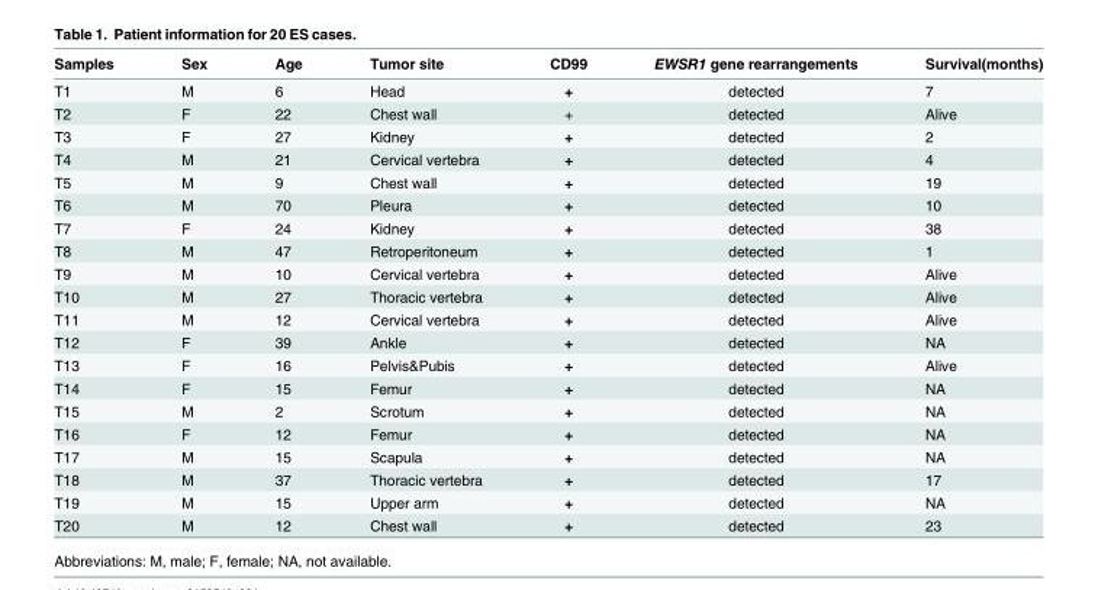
<table><thead><tr><td>Samples</td><td>Sex</td><td>Age</td><td>Tumor site</td><td>CD99</td><td>EWSR1 gene rearrangements</td><td>Survival(months)</td></tr></thead><tbody><tr><td>T1</td><td>M</td><td>6</td><td>Head</td><td>+</td><td>detected</td><td>7</td></tr><tr><td>T2</td><td>F</td><td>22</td><td>Chest wall</td><td>+</td><td>detected</td><td>Alive</td></tr><tr><td>T3</td><td>F</td><td>27</td><td>Kidney</td><td>+</td><td>detected</td><td>2</td></tr><tr><td>T4</td><td>M</td><td>21</td><td>Cervical vertebra</td><td>+</td><td>detected</td><td>4</td></tr><tr><td>T5</td><td>M</td><td>9</td><td>Chest wall</td><td>+</td><td>detected</td><td>19</td></tr><tr><td>T6</td><td>M</td><td>70</td><td>Pleura</td><td>+</td><td>detected</td><td>10</td></tr><tr><td>T7</td><td>F</td><td>24</td><td>Kidney</td><td>+</td><td>detected</td><td>38</td></tr><tr><td>T8</td><td>M</td><td>47</td><td>Retroperitoneum</td><td>+</td><td>detected</td><td>1</td></tr><tr><td>T9</td><td>M</td><td>10</td><td>Cervical vertebra</td><td>+</td><td>detected</td><td>Alive</td></tr><tr><td>T10</td><td>M</td><td>27</td><td>Thoracic vertebra</td><td>+</td><td>detected</td><td>Alive</td></tr><tr><td>T11</td><td>M</td><td>12</td><td>Cervical vertebra</td><td>+</td><td>detected</td><td>Alive</td></tr><tr><td>T12</td><td>F</td><td>39</td><td>Ankle</td><td>+</td><td>detected</td><td>NA</td></tr><tr><td>T13</td><td>F</td><td>16</td><td>Pelvis&amp;Pubis</td><td>+</td><td>detected</td><td>Alive</td></tr><tr><td>T14</td><td>F</td><td>15</td><td>Femur</td><td>+</td><td>detected</td><td>NA</td></tr><tr><td>T15</td><td>M</td><td>2</td><td>Scrotum</td><td>+</td><td>detected</td><td>NA</td></tr><tr><td>T16</td><td>F</td><td>12</td><td>Femur</td><td>+</td><td>detected</td><td>NA</td></tr><tr><td>T17</td><td>M</td><td>15</td><td>Scapula</td><td>+</td><td>detected</td><td>NA</td></tr><tr><td>T18</td><td>M</td><td>37</td><td>Thoracic vertebra</td><td>+</td><td>detected</td><td>17</td></tr><tr><td>T19</td><td>M</td><td>15</td><td>Upper arm</td><td>+</td><td>detected</td><td>NA</td></tr><tr><td>T20</td><td>M</td><td>12</td><td>Chest wall</td><td>+</td><td>detected</td><td>23</td></tr></tbody></table>